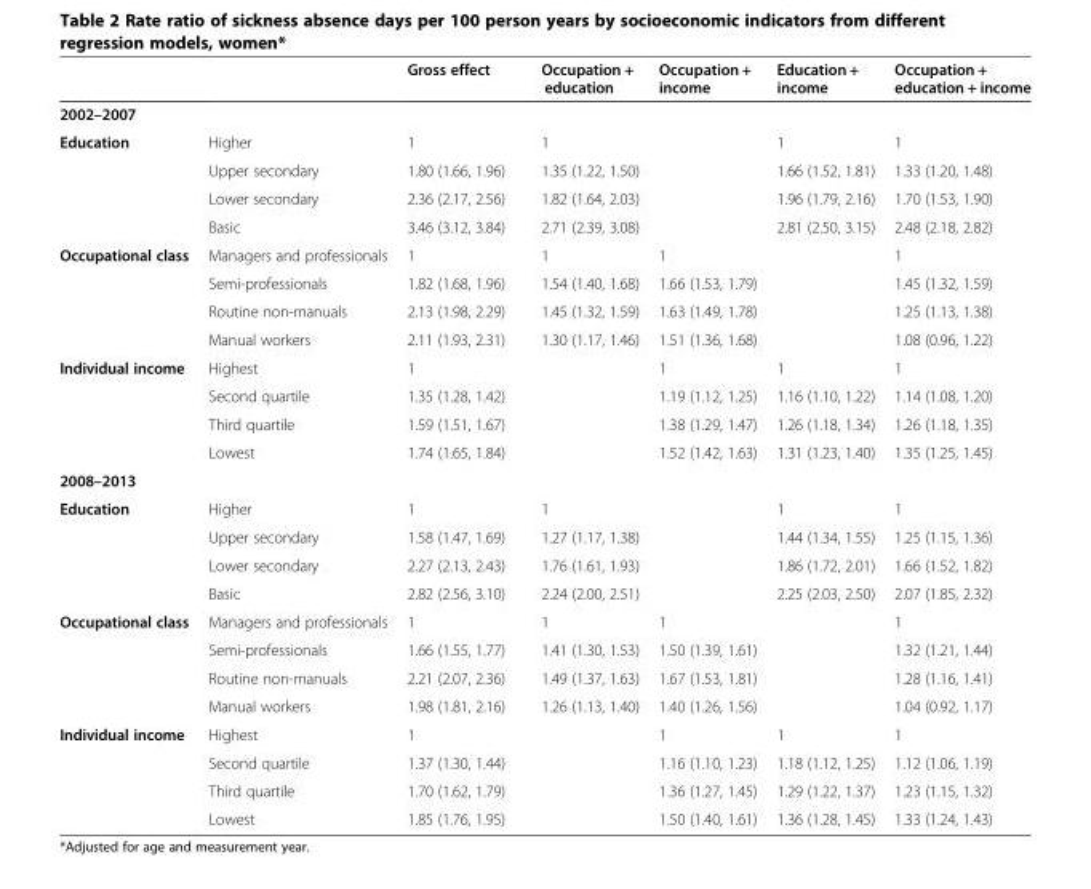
<table><thead><tr><td></td><td></td><td>Gross effect</td><td>Occupation + education</td><td>Occupation + income</td><td>Education + income</td><td>Occupation + education + income</td></tr></thead><tbody><tr><td colspan="7">2002–2007</td></tr><tr><td rowspan="4">Education</td><td>Higher</td><td>1</td><td>1</td><td></td><td>1</td><td>1</td></tr><tr><td>Upper secondary</td><td>1.80 (1.66, 1.96)</td><td>1.35 (1.22, 1.50)</td><td></td><td>1.66 (1.52, 1.81)</td><td>1.33 (1.20, 1.48)</td></tr><tr><td>Lower secondary</td><td>2.36 (2.17, 2.56)</td><td>1.82 (1.64, 2.03)</td><td></td><td>1.96 (1.79, 2.16)</td><td>1.70 (1.53, 1.90)</td></tr><tr><td>Basic</td><td>3.46 (3.12, 3.84)</td><td>2.71 (2.39, 3.08)</td><td></td><td>2.81 (2.50, 3.15)</td><td>2.48 (2.18, 2.82)</td></tr><tr><td rowspan="4">Occupational class</td><td>Managers and professionals</td><td>1</td><td>1</td><td>1</td><td></td><td>1</td></tr><tr><td>Semi-professionals</td><td>1.82 (1.68, 1.96)</td><td>1.54 (1.40, 1.68)</td><td>1.66 (1.53, 1.79)</td><td></td><td>1.45 (1.32, 1.59)</td></tr><tr><td>Routine non-manuals</td><td>2.13 (1.98, 2.29)</td><td>1.45 (1.32, 1.59)</td><td>1.63 (1.49, 1.78)</td><td></td><td>1.25 (1.13, 1.38)</td></tr><tr><td>Manual workers</td><td>2.11 (1.93, 2.31)</td><td>1.30 (1.17, 1.46)</td><td>1.51 (1.36, 1.68)</td><td></td><td>1.08 (0.96, 1.22)</td></tr><tr><td rowspan="4">Individual income</td><td>Highest</td><td>1</td><td></td><td>1</td><td>1</td><td>1</td></tr><tr><td>Second quartile</td><td>1.35 (1.28, 1.42)</td><td></td><td>1.19 (1.12, 1.25)</td><td>1.16 (1.10, 1.22)</td><td>1.14 (1.08, 1.20)</td></tr><tr><td>Third quartile</td><td>1.59 (1.51, 1.67)</td><td></td><td>1.38 (1.29, 1.47)</td><td>1.26 (1.18, 1.34)</td><td>1.26 (1.18, 1.35)</td></tr><tr><td>Lowest</td><td>1.74 (1.65, 1.84)</td><td></td><td>1.52 (1.42, 1.63)</td><td>1.31 (1.23, 1.40)</td><td>1.35 (1.25, 1.45)</td></tr><tr><td colspan="7">2008–2013</td></tr><tr><td rowspan="4">Education</td><td>Higher</td><td>1</td><td>1</td><td></td><td>1</td><td>1</td></tr><tr><td>Upper secondary</td><td>1.58 (1.47, 1.69)</td><td>1.27 (1.17, 1.38)</td><td></td><td>1.44 (1.34, 1.55)</td><td>1.25 (1.15, 1.36)</td></tr><tr><td>Lower secondary</td><td>2.27 (2.13, 2.43)</td><td>1.76 (1.61, 1.93)</td><td></td><td>1.86 (1.72, 2.01)</td><td>1.66 (1.52, 1.82)</td></tr><tr><td>Basic</td><td>2.82 (2.56, 3.10)</td><td>2.24 (2.00, 2.51)</td><td></td><td>2.25 (2.03, 2.50)</td><td>2.07 (1.85, 2.32)</td></tr><tr><td rowspan="4">Occupational class</td><td>Managers and professionals</td><td>1</td><td>1</td><td>1</td><td></td><td>1</td></tr><tr><td>Semi-professionals</td><td>1.66 (1.55, 1.77)</td><td>1.41 (1.30, 1.53)</td><td>1.50 (1.39, 1.61)</td><td></td><td>1.32 (1.21, 1.44)</td></tr><tr><td>Routine non-manuals</td><td>2.21 (2.07, 2.36)</td><td>1.49 (1.37, 1.63)</td><td>1.67 (1.53, 1.81)</td><td></td><td>1.28 (1.16, 1.41)</td></tr><tr><td>Manual workers</td><td>1.98 (1.81, 2.16)</td><td>1.26 (1.13, 1.40)</td><td>1.40 (1.26, 1.56)</td><td></td><td>1.04 (0.92, 1.17)</td></tr><tr><td rowspan="4">Individual income</td><td>Highest</td><td>1</td><td></td><td>1</td><td>1</td><td>1</td></tr><tr><td>Second quartile</td><td>1.37 (1.30, 1.44)</td><td></td><td>1.16 (1.10, 1.23)</td><td>1.18 (1.12, 1.25)</td><td>1.12 (1.06, 1.19)</td></tr><tr><td>Third quartile</td><td>1.70 (1.62, 1.79)</td><td></td><td>1.36 (1.27, 1.45)</td><td>1.29 (1.22, 1.37)</td><td>1.23 (1.15, 1.32)</td></tr><tr><td>Lowest</td><td>1.85 (1.76, 1.95)</td><td></td><td>1.50 (1.40, 1.61)</td><td>1.36 (1.28, 1.45)</td><td>1.33 (1.24, 1.43)</td></tr></tbody></table>